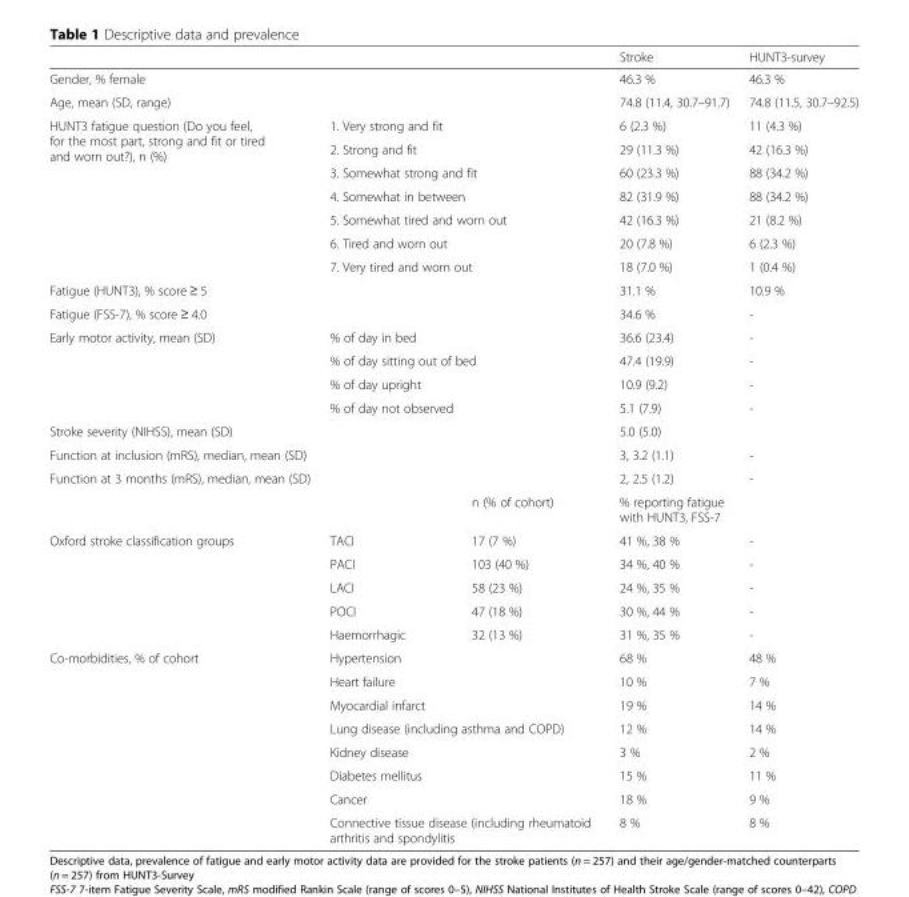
<table><thead><tr><td></td><td></td><td></td><td>Stroke</td><td>HUNT3-survey</td></tr></thead><tbody><tr><td>Gender, % female</td><td colspan="2"></td><td>46.3 %</td><td>46.3 %</td></tr><tr><td>Age, mean (SD, range)</td><td colspan="2"></td><td>74.8 (11.4, 30.7–91.7)</td><td>74.8 (11.5, 30.7–92.5)</td></tr><tr><td rowspan="7">HUNT3 fatigue question (Do you feel, for the most part, strong and fit or tired and worn out?), n (%)</td><td colspan="2">1. Very strong and fit</td><td>6 (2.3 %)</td><td>11 (4.3 %)</td></tr><tr><td colspan="2">2. Strong and fit</td><td>29 (11.3 %)</td><td>42 (16.3 %)</td></tr><tr><td colspan="2">3. Somewhat strong and fit</td><td>60 (23.3 %)</td><td>88 (34.2 %)</td></tr><tr><td colspan="2">4. Somewhat in between</td><td>82 (31.9 %)</td><td>88 (34.2 %)</td></tr><tr><td colspan="2">5. Somewhat tired and worn out</td><td>42 (16.3 %)</td><td>21 (8.2 %)</td></tr><tr><td colspan="2">6. Tired and worn out</td><td>20 (7.8 %)</td><td>6 (2.3 %)</td></tr><tr><td colspan="2">7. Very tired and worn out</td><td>18 (7.0 %)</td><td>1 (0.4 %)</td></tr><tr><td>Fatigue (HUNT3), % score ≥ 5</td><td colspan="2"></td><td>31.1 %</td><td>10.9 %</td></tr><tr><td>Fatigue (FSS-7), % score ≥ 4.0</td><td colspan="2"></td><td>34.6 %</td><td>-</td></tr><tr><td rowspan="4">Early motor activity, mean (SD)</td><td colspan="2">% of day in bed</td><td>36.6 (23.4)</td><td>-</td></tr><tr><td colspan="2">% of day sitting out of bed</td><td>47.4 (19.9)</td><td>-</td></tr><tr><td colspan="2">% of day upright</td><td>10.9 (9.2)</td><td>-</td></tr><tr><td colspan="2">% of day not observed</td><td>5.1 (7.9)</td><td>-</td></tr><tr><td>Stroke severity (NIHSS), mean (SD)</td><td colspan="2"></td><td>5.0 (5.0)</td><td></td></tr><tr><td>Function at inclusion (mRS), median, mean (SD)</td><td colspan="2"></td><td>3, 3.2 (1.1)</td><td>-</td></tr><tr><td rowspan="2">Function at 3 months (mRS), median, mean (SD)</td><td colspan="2"></td><td>2, 2.5 (1.2)</td><td>-</td></tr><tr><td></td><td>n (% of cohort)</td><td>% reporting fatigue with HUNT3, FSS-7</td><td></td></tr><tr><td rowspan="5">Oxford stroke classification groups</td><td>TACI</td><td>17 (7 %)</td><td>41 %, 38 %</td><td>-</td></tr><tr><td>PACI</td><td>103 (40 %)</td><td>34 %, 40 %</td><td>-</td></tr><tr><td>LACI</td><td>58 (23 %)</td><td>24 %, 35 %</td><td>-</td></tr><tr><td>POCI</td><td>47 (18 %)</td><td>30 %, 44 %</td><td>-</td></tr><tr><td>Haemorrhagic</td><td>32 (13 %)</td><td>31 %, 35 %</td><td>-</td></tr><tr><td rowspan="8">Co-morbidities, % of cohort</td><td colspan="2">Hypertension</td><td>68 %</td><td>48 %</td></tr><tr><td colspan="2">Heart failure</td><td>10 %</td><td>7 %</td></tr><tr><td colspan="2">Myocardial infarct</td><td>19 %</td><td>14 %</td></tr><tr><td colspan="2">Lung disease (including asthma and COPD)</td><td>12 %</td><td>14 %</td></tr><tr><td colspan="2">Kidney disease</td><td>3 %</td><td>2 %</td></tr><tr><td colspan="2">Diabetes mellitus</td><td>15 %</td><td>11 %</td></tr><tr><td colspan="2">Cancer</td><td>18 %</td><td>9 %</td></tr><tr><td colspan="2">Connective tissue disease (including rheumatoid arthritis and spondylitis</td><td>8 %</td><td>8 %</td></tr></tbody></table>